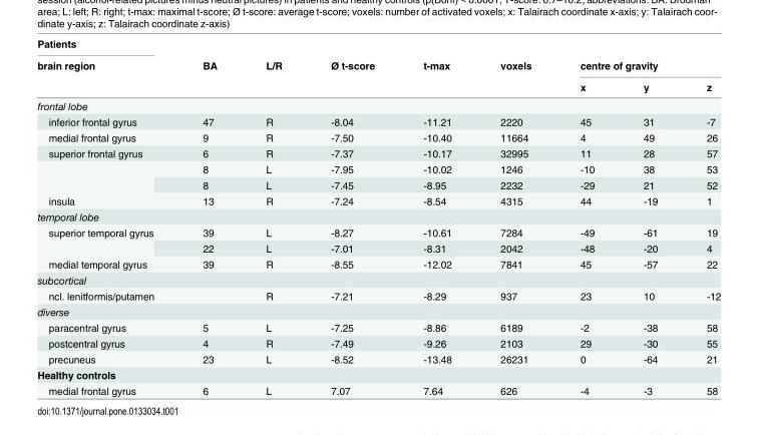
<table><thead><tr><td rowspan="3">Patients brain region</td><td rowspan="3">BA</td><td rowspan="3">L/R</td><td rowspan="3">Ø t-score</td><td rowspan="3">t-max</td><td rowspan="3">voxels</td><td></td><td></td><td></td></tr><tr><td colspan="3">centre of gravity</td></tr><tr><td>x</td><td>y</td><td>z</td></tr></thead><tbody><tr><td colspan="9">frontal lobe</td></tr><tr><td>inferior frontal gyrus</td><td>47</td><td>R</td><td>-8.04</td><td>-11.21</td><td>2220</td><td>45</td><td>31</td><td>-7</td></tr><tr><td>medial frontal gyrus</td><td>9</td><td>R</td><td>-7.50</td><td>-10.40</td><td>11664</td><td>4</td><td>49</td><td>26</td></tr><tr><td rowspan="3">superior frontal gyrus</td><td>6</td><td>R</td><td>-7.37</td><td>-10.17</td><td>32995</td><td>11</td><td>28</td><td>57</td></tr><tr><td>8</td><td>L</td><td>-7.95</td><td>-10.02</td><td>1246</td><td>-10</td><td>38</td><td>53</td></tr><tr><td>8</td><td>L</td><td>-7.45</td><td>-8.95</td><td>2232</td><td>-29</td><td>21</td><td>52</td></tr><tr><td>insula</td><td>13</td><td>R</td><td>-7.24</td><td>-8.54</td><td>4315</td><td>44</td><td>-19</td><td>1</td></tr><tr><td colspan="9">temporal lobe</td></tr><tr><td rowspan="2">superior temporal gyrus</td><td>39</td><td>L</td><td>-8.27</td><td>-10.61</td><td>7284</td><td>-49</td><td>-61</td><td>19</td></tr><tr><td>22</td><td>L</td><td>-7.01</td><td>-8.31</td><td>2042</td><td>-48</td><td>-20</td><td>4</td></tr><tr><td>medial temporal gyrus</td><td>39</td><td>R</td><td>-8.55</td><td>-12.02</td><td>7841</td><td>45</td><td>-57</td><td>22</td></tr><tr><td colspan="9">subcortical</td></tr><tr><td>ncl. lenitformis/putamen</td><td></td><td>R</td><td>-7.21</td><td>-8.29</td><td>937</td><td>23</td><td>10</td><td>-12</td></tr><tr><td colspan="9">diverse</td></tr><tr><td>paracentral gyrus</td><td>5</td><td>L</td><td>-7.25</td><td>-8.86</td><td>6189</td><td>-2</td><td>-38</td><td>58</td></tr><tr><td>postcentral gyrus</td><td>4</td><td>R</td><td>-7.49</td><td>-9.26</td><td>2103</td><td>29</td><td>-30</td><td>55</td></tr><tr><td>precuneus</td><td>23</td><td>L</td><td>-8.52</td><td>-13.48</td><td>26231</td><td>0</td><td>-64</td><td>21</td></tr><tr><td colspan="9">Healthy controls</td></tr><tr><td>medial frontal gyrus</td><td>6</td><td>L</td><td>7.07</td><td>7.64</td><td>626</td><td>-4</td><td>-3</td><td>58</td></tr></tbody></table>